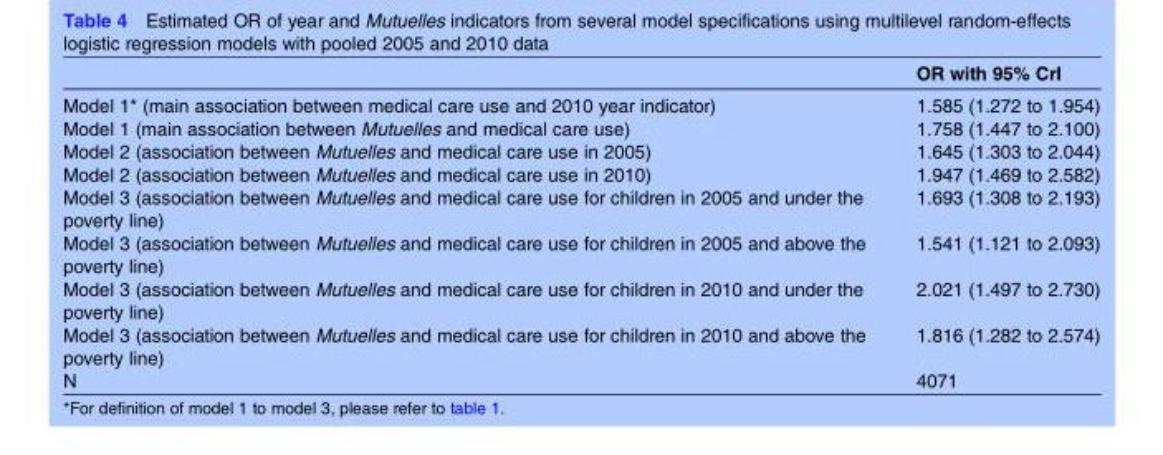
<table><thead><tr><td></td><td>OR with 95% CrI</td></tr></thead><tbody><tr><td>Model 1* (main association between medical care use and 2010 year indicator)</td><td>1.585 (1.272 to 1.954)</td></tr><tr><td>Model 1 (main association between Mutuelles and medical care use)</td><td>1.758 (1.447 to 2.100)</td></tr><tr><td>Model 2 (association between Mutuelles and medical care use in 2005)</td><td>1.645 (1.303 to 2.044)</td></tr><tr><td>Model 2 (association between Mutuelles and medical care use in 2010)</td><td>1.947 (1.469 to 2.582)</td></tr><tr><td>Model 3 (association between Mutuelles and medical care use for children in 2005 and under the poverty line)</td><td>1.693 (1.308 to 2.193)</td></tr><tr><td>Model 3 (association between Mutuelles and medical care use for children in 2005 and above the poverty line)</td><td>1.541 (1.121 to 2.093)</td></tr><tr><td>Model 3 (association between Mutuelles and medical care use for children in 2010 and under the poverty line)</td><td>2.021 (1.497 to 2.730)</td></tr><tr><td>Model 3 (association between Mutuelles and medical care use for children in 2010 and above the poverty line)</td><td>1.816 (1.282 to 2.574)</td></tr><tr><td>N</td><td>4071</td></tr></tbody></table>